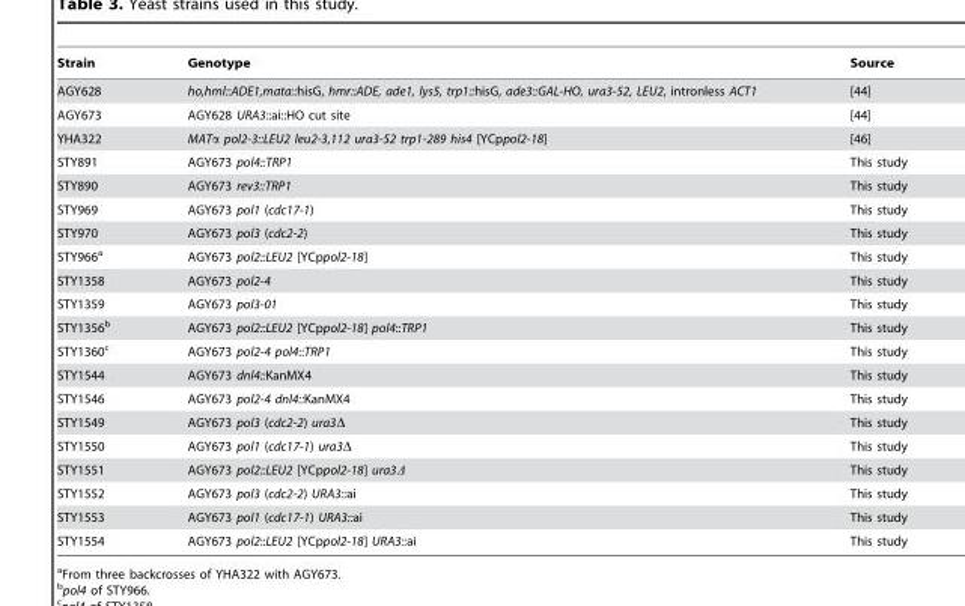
<table><thead><tr><td>Strain</td><td>Genotype</td><td>Source</td></tr></thead><tbody><tr><td>AGY628</td><td>ho,hml::ADE1,mata::hisG, hmr::ADE, ade1, lys5, trp1::hisG, ade3::GAL-HO, ura3-52, LEU2, intronless ACT1</td><td>[44]</td></tr><tr><td>AGY673</td><td>AGY628 URA3::ai::HO cut site</td><td>[44]</td></tr><tr><td>YHA322</td><td>MATα pol2-3::LEU2 leu2-3,112 ura3-52 trp1-289 his4 [YCppol2-18]</td><td>[46]</td></tr><tr><td>STY891</td><td>AGY673 pol4::TRP1</td><td>This study</td></tr><tr><td>STY890</td><td>AGY673 rev3::TRP1</td><td>This study</td></tr><tr><td>STY969</td><td>AGY673 pol1 (cdc17-1)</td><td>This study</td></tr><tr><td>STY970</td><td>AGY673 pol3 (cdc2-2)</td><td>This study</td></tr><tr><td>STY966<sup>a</sup></td><td>AGY673 pol2::LEU2 [YCppol2-18]</td><td>This study</td></tr><tr><td>STY1358</td><td>AGY673 pol2-4</td><td>This study</td></tr><tr><td>STY1359</td><td>AGY673 pol3-01</td><td>This study</td></tr><tr><td>STY1356<sup>b</sup></td><td>AGY673 pol2::LEU2 [YCppol2-18] pol4::TRP1</td><td>This study</td></tr><tr><td>STY1360<sup>c</sup></td><td>AGY673 pol2-4 pol4::TRP1</td><td>This study</td></tr><tr><td>STY1544</td><td>AGY673 dnl4::KanMX4</td><td>This study</td></tr><tr><td>STY1546</td><td>AGY673 pol2-4 dnl4::KanMX4</td><td>This study</td></tr><tr><td>STY1549</td><td>AGY673 pol3 (cdc2-2) ura3Δ</td><td>This study</td></tr><tr><td>STY1550</td><td>AGY673 pol1 (cdc17-1) ura3Δ</td><td>This study</td></tr><tr><td>STY1551</td><td>AGY673 pol2::LEU2 [YCppol2-18] ura3Δ</td><td>This study</td></tr><tr><td>STY1552</td><td>AGY673 pol3 (cdc2-2) URA3::ai</td><td>This study</td></tr><tr><td>STY1553</td><td>AGY673 pol1 (cdc17-1) URA3::ai</td><td>This study</td></tr><tr><td>STY1554</td><td>AGY673 pol2::LEU2 [YCppol2-18] URA3::ai</td><td>This study</td></tr></tbody></table>